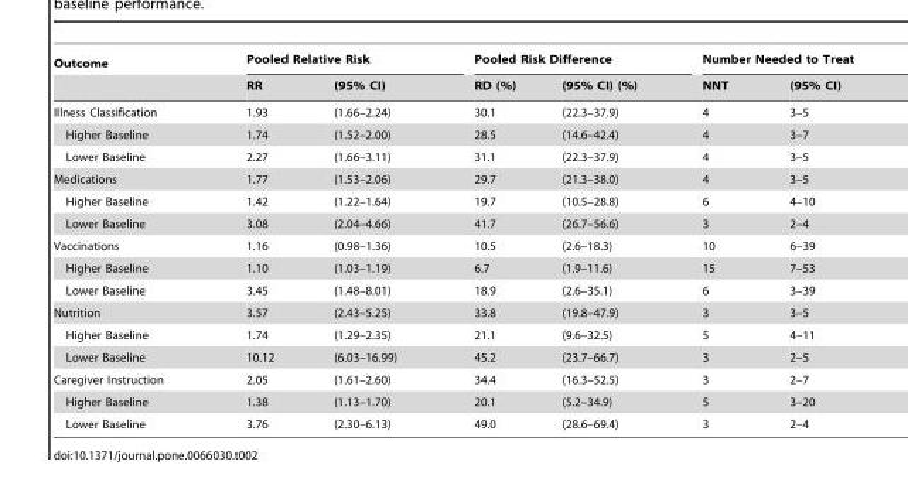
<table><thead><tr><td rowspan="2">Outcome</td><td colspan="2">Pooled Relative Risk</td><td colspan="2">Pooled Risk Difference</td><td colspan="2">Number Needed to Treat</td></tr><tr><td>RR</td><td>(95% CI)</td><td>RD (%)</td><td>(95% CI) (%)</td><td>NNT</td><td>(95% CI)</td></tr></thead><tbody><tr><td>Illness Classification</td><td>1.93</td><td>(1.66–2.24)</td><td>30.1</td><td>(22.3–37.9)</td><td>4</td><td>3–5</td></tr><tr><td>Higher Baseline</td><td>1.74</td><td>(1.52–2.00)</td><td>28.5</td><td>(14.6–42.4)</td><td>4</td><td>3–7</td></tr><tr><td>Lower Baseline</td><td>2.27</td><td>(1.66–3.11)</td><td>31.1</td><td>(22.3–37.9)</td><td>4</td><td>3–5</td></tr><tr><td>Medications</td><td>1.77</td><td>(1.53–2.06)</td><td>29.7</td><td>(21.3–38.0)</td><td>4</td><td>3–5</td></tr><tr><td>Higher Baseline</td><td>1.42</td><td>(1.22–1.64)</td><td>19.7</td><td>(10.5–28.8)</td><td>6</td><td>4–10</td></tr><tr><td>Lower Baseline</td><td>3.08</td><td>(2.04–4.66)</td><td>41.7</td><td>(26.7–56.6)</td><td>3</td><td>2–4</td></tr><tr><td>Vaccinations</td><td>1.16</td><td>(0.98–1.36)</td><td>10.5</td><td>(2.6–18.3)</td><td>10</td><td>6–39</td></tr><tr><td>Higher Baseline</td><td>1.10</td><td>(1.03–1.19)</td><td>6.7</td><td>(1.9–11.6)</td><td>15</td><td>7–53</td></tr><tr><td>Lower Baseline</td><td>3.45</td><td>(1.48–8.01)</td><td>18.9</td><td>(2.6–35.1)</td><td>6</td><td>3–39</td></tr><tr><td>Nutrition</td><td>3.57</td><td>(2.43–5.25)</td><td>33.8</td><td>(19.8–47.9)</td><td>3</td><td>3–5</td></tr><tr><td>Higher Baseline</td><td>1.74</td><td>(1.29–2.35)</td><td>21.1</td><td>(9.6–32.5)</td><td>5</td><td>4–11</td></tr><tr><td>Lower Baseline</td><td>10.12</td><td>(6.03–16.99)</td><td>45.2</td><td>(23.7–66.7)</td><td>3</td><td>2–5</td></tr><tr><td>Caregiver Instruction</td><td>2.05</td><td>(1.61–2.60)</td><td>34.4</td><td>(16.3–52.5)</td><td>3</td><td>2–7</td></tr><tr><td>Higher Baseline</td><td>1.38</td><td>(1.13–1.70)</td><td>20.1</td><td>(5.2–34.9)</td><td>5</td><td>3–20</td></tr><tr><td>Lower Baseline</td><td>3.76</td><td>(2.30–6.13)</td><td>49.0</td><td>(28.6–69.4)</td><td>3</td><td>2–4</td></tr></tbody></table>